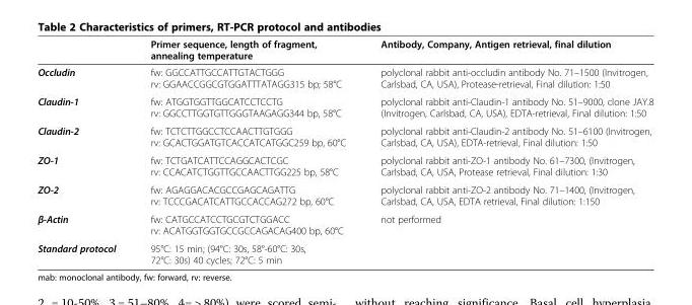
<table><thead><tr><td></td><td>Primer sequence, length of fragment, annealing temperature</td><td>Antibody, Company, Antigen retrieval, final dilution</td></tr></thead><tbody><tr><td>Occludin</td><td>fw: GGCCATTGCCATTGTACTGGG rv: GGAACCGGCGTGGATTTATAGG315 bp; 58°C</td><td>polyclonal rabbit anti-occludin antibody No. 71–1500 (Invitrogen, Carlsbad, CA, USA), Protease-retrieval, Final dilution: 1:50</td></tr><tr><td>Claudin-1</td><td>fw: ATGGTGGTTGGCATCCTCCTG rv: GGCCTTGGTGTTGGGTAAGAGG344 bp, 58°C</td><td>polyclonal rabbit anti-Claudin-1 antibody No. 51–9000, clone JAY.8 (Invitrogen, Carlsbad, CA, USA), EDTA-retrieval, Final dilution: 1:50</td></tr><tr><td>Claudin-2</td><td>fw: TCTCTTGGCCTCCAACTTGTGGG rv: GCACTGGATGTCACCATCATGGC259 bp, 60°C</td><td>polyclonal rabbit anti-Claudin-2 antibody No. 51–6100 (Invitrogen, Carlsbad, CA, USA), EDTA-retrieval, Final dilution: 1:50</td></tr><tr><td>ZO-1</td><td>fw: TCTGATCATTCCAGGCACTCGC rv: CCACATCTGGTTGCCAACTTGG225 bp, 58°C</td><td>polyclonal rabbit anti-ZO-1 antibody No. 61–7300, (Invitrogen, Carlsbad, CA, USA, Protease retrieval, Final dilution: 1:30</td></tr><tr><td>ZO-2</td><td>fw: AGAGGACACGCCGAGCAGATTG rv: TCCCGACATCATTGCCACCAG272 bp, 60°C</td><td>polyclonal rabbit anti-ZO-2 antibody No. 71–1400, (Invitrogen, Carlsbad, CA, USA, EDTA retrieval, Final dilution: 1:150</td></tr><tr><td>β-Actin</td><td>fw: CATGCCATCCTGCGTCTGGACC rv: ACATGGTGGTGCCGCCAGACAG400 bp, 60°C</td><td>not performed</td></tr><tr><td>Standard protocol</td><td>95°C: 15 min; (94°C: 30s, 58°-60°C: 30s, 72°C: 30s) 40 cycles; 72°C: 5 min</td><td></td></tr></tbody></table>